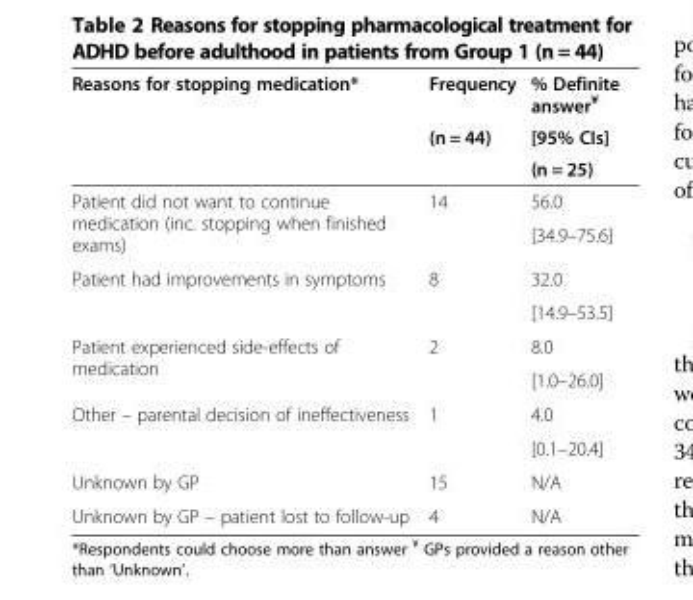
<table><thead><tr><td rowspan="3">Reasons for stopping medication*</td><td rowspan="3">Frequency (n = 44)</td><td rowspan="3">% Definite answer<sup>¥</sup> [95% CIs] (n = 25)</td></tr><tr></tr><tr></tr></thead><tbody><tr><td rowspan="2">Patient did not want to continue medication (inc. stopping when finished exams)</td><td rowspan="2">14</td><td>56.0</td></tr><tr><td>[34.9–75.6]</td></tr><tr><td rowspan="2">Patient had improvements in symptoms</td><td rowspan="2">8</td><td>32.0</td></tr><tr><td>[14.9–53.5]</td></tr><tr><td rowspan="2">Patient experienced side-effects of medication</td><td rowspan="2">2</td><td>8.0</td></tr><tr><td>[1.0–26.0]</td></tr><tr><td rowspan="2">Other – parental decision of ineffectiveness</td><td rowspan="2">1</td><td>4.0</td></tr><tr><td>[0.1–20.4]</td></tr><tr><td>Unknown by GP</td><td>15</td><td>N/A</td></tr><tr><td>Unknown by GP – patient lost to follow-up</td><td>4</td><td>N/A</td></tr></tbody></table>